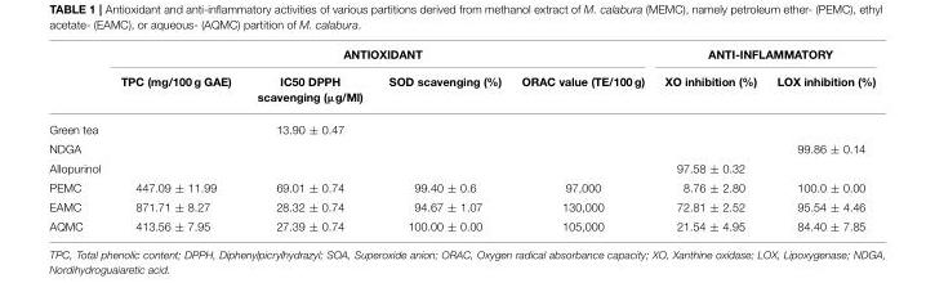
<table><thead><tr><td rowspan="2"></td><td colspan="4">ANTIOXIDANT</td><td colspan="2">ANTI-INFLAMMATORY</td></tr><tr><td>TPC (mg/100 g GAE)</td><td>IC50 DPPH scavenging (µg/Ml)</td><td>SOD scavenging (%)</td><td>ORAC value (TE/100 g)</td><td>XO inhibition (%)</td><td>LOX inhibition (%)</td></tr></thead><tbody><tr><td>Green tea</td><td></td><td>13.90 ± 0.47</td><td></td><td></td><td></td><td></td></tr><tr><td>NDGA</td><td></td><td></td><td></td><td></td><td></td><td>99.86 ± 0.14</td></tr><tr><td>Allopurinol</td><td></td><td></td><td></td><td></td><td>97.58 ± 0.32</td><td></td></tr><tr><td>PEMC</td><td>447.09 ± 11.99</td><td>69.01 ± 0.74</td><td>99.40 ± 0.6</td><td>97,000</td><td>8.76 ± 2.80</td><td>100.0 ± 0.00</td></tr><tr><td>EAMC</td><td>871.71 ± 8.27</td><td>28.32 ± 0.74</td><td>94.67 ± 1.07</td><td>130,000</td><td>72.81 ± 2.52</td><td>95.54 ± 4.46</td></tr><tr><td>AQMC</td><td>413.56 ± 7.95</td><td>27.39 ± 0.74</td><td>100.00 ± 0.00</td><td>105,000</td><td>21.54 ± 4.95</td><td>84.40 ± 7.85</td></tr></tbody></table>